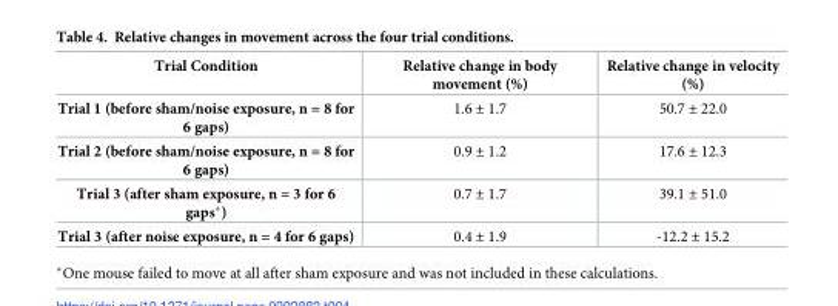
<table><thead><tr><td>Trial Condition</td><td>Relative change in body movement (%)</td><td>Relative change in velocity (%)</td></tr></thead><tbody><tr><td>Trial 1 (before sham/noise exposure, n = 8 for 6 gaps)</td><td>1.6 ± 1.7</td><td>50.7 ± 22.0</td></tr><tr><td>Trial 2 (before sham/noise exposure, n = 8 for 6 gaps)</td><td>0.9 ± 1.2</td><td>17.6 ± 12.3</td></tr><tr><td>Trial 3 (after sham exposure, n = 3 for 6 gaps*)</td><td>0.7 ± 1.7</td><td>39.1 ± 51.0</td></tr><tr><td>Trial 3 (after noise exposure, n = 4 for 6 gaps)</td><td>0.4 ± 1.9</td><td>-12.2 ± 15.2</td></tr></tbody></table>